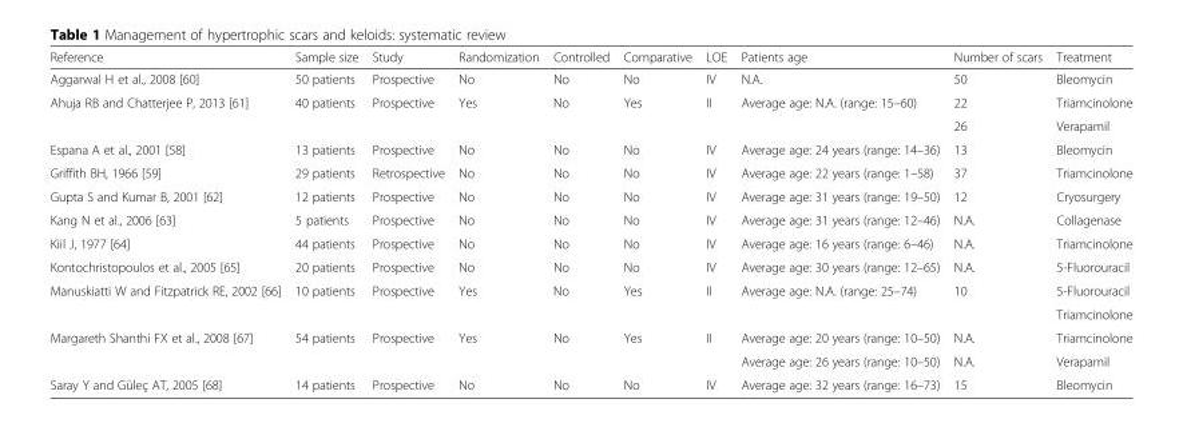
<table><thead><tr><td>Reference</td><td>Sample size</td><td>Study</td><td>Randomization</td><td>Controlled</td><td>Comparative</td><td>LOE</td><td>Patients age</td><td>Number of scars</td><td>Treatment</td></tr></thead><tbody><tr><td>Aggarwal H et al., 2008 [60]</td><td>50 patients</td><td>Prospective</td><td>No</td><td>No</td><td>No</td><td>IV</td><td>N.A.</td><td>50</td><td>Bleomycin</td></tr><tr><td rowspan="2">Ahuja RB and Chatterjee P, 2013 [61]</td><td rowspan="2">40 patients</td><td rowspan="2">Prospective</td><td rowspan="2">Yes</td><td rowspan="2">No</td><td rowspan="2">Yes</td><td rowspan="2">II</td><td rowspan="2">Average age: N.A. (range: 15–60)</td><td>22</td><td>Triamcinolone</td></tr><tr><td>26</td><td>Verapamil</td></tr><tr><td>Espana A et al., 2001 [58]</td><td>13 patients</td><td>Prospective</td><td>No</td><td>No</td><td>No</td><td>IV</td><td>Average age: 24 years (range: 14–36)</td><td>13</td><td>Bleomycin</td></tr><tr><td>Griffith BH, 1966 [59]</td><td>29 patients</td><td>Retrospective</td><td>No</td><td>No</td><td>No</td><td>IV</td><td>Average age: 22 years (range: 1–58)</td><td>37</td><td>Triamcinolone</td></tr><tr><td>Gupta S and Kumar B, 2001 [62]</td><td>12 patients</td><td>Prospective</td><td>No</td><td>No</td><td>No</td><td>IV</td><td>Average age: 31 years (range: 19–50)</td><td>12</td><td>Cryosurgery</td></tr><tr><td>Kang N et al., 2006 [63]</td><td>5 patients</td><td>Prospective</td><td>No</td><td>No</td><td>No</td><td>IV</td><td>Average age: 31 years (range: 12–46)</td><td>N.A.</td><td>Collagenase</td></tr><tr><td>Kiil J, 1977 [64]</td><td>44 patients</td><td>Prospective</td><td>No</td><td>No</td><td>No</td><td>IV</td><td>Average age: 16 years (range: 6–46)</td><td>N.A.</td><td>Triamcinolone</td></tr><tr><td>Kontochristopoulos et al., 2005 [65]</td><td>20 patients</td><td>Prospective</td><td>No</td><td>No</td><td>No</td><td>IV</td><td>Average age: 30 years (range: 12–65)</td><td>N.A.</td><td>5-Fluorouracil</td></tr><tr><td rowspan="2">Manuskiatti W and Fitzpatrick RE, 2002 [66]</td><td rowspan="2">10 patients</td><td rowspan="2">Prospective</td><td rowspan="2">Yes</td><td rowspan="2">No</td><td rowspan="2">Yes</td><td rowspan="2">II</td><td rowspan="2">Average age: N.A. (range: 25–74)</td><td rowspan="2">10</td><td>5-Fluorouracil</td></tr><tr><td>Triamcinolone</td></tr><tr><td rowspan="2">Margareth Shanthi FX et al., 2008 [67]</td><td rowspan="2">54 patients</td><td rowspan="2">Prospective</td><td rowspan="2">Yes</td><td rowspan="2">No</td><td rowspan="2">Yes</td><td rowspan="2">II</td><td>Average age: 20 years (range: 10–50)</td><td>N.A.</td><td>Triamcinolone</td></tr><tr><td>Average age: 26 years (range: 10–50)</td><td>N.A.</td><td>Verapamil</td></tr><tr><td>Saray Y and Güleç AT, 2005 [68]</td><td>14 patients</td><td>Prospective</td><td>No</td><td>No</td><td>No</td><td>IV</td><td>Average age: 32 years (range: 16–73)</td><td>15</td><td>Bleomycin</td></tr></tbody></table>